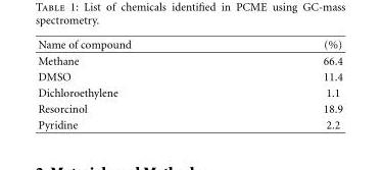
<table><thead><tr><td>Name of compound</td><td>(%)</td></tr></thead><tbody><tr><td>Methane</td><td>66.4</td></tr><tr><td>DMSO</td><td>11.4</td></tr><tr><td>Dichloroethylene</td><td>1.1</td></tr><tr><td>Resorcinol</td><td>18.9</td></tr><tr><td>Pyridine</td><td>2.2</td></tr></tbody></table>